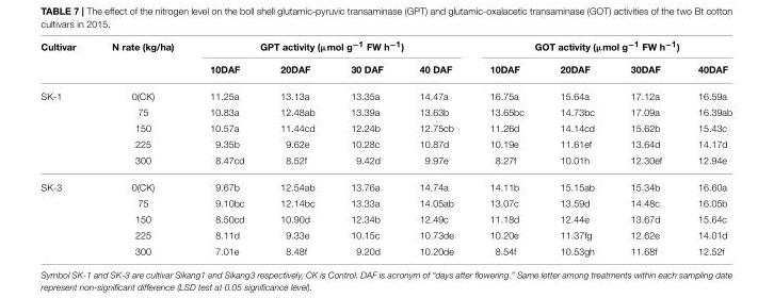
<table><thead><tr><td rowspan="2">Cultivar</td><td rowspan="2">N rate (kg/ha)</td><td colspan="4">GPT activity (µmol g<sup>−1</sup> FW h<sup>−1</sup>)</td><td colspan="4">GOT activity (µmol g<sup>−1</sup> FW h<sup>−1</sup>)</td></tr><tr><td>10DAF</td><td>20DAF</td><td>30 DAF</td><td>40 DAF</td><td>10DAF</td><td>20DAF</td><td>30DAF</td><td>40DAF</td></tr></thead><tbody><tr><td rowspan="5">SK-1</td><td>0(CK)</td><td>11.25a</td><td>13.13a</td><td>13.35a</td><td>14.47a</td><td>16.75a</td><td>15.64a</td><td>17.12a</td><td>16.59a</td></tr><tr><td>75</td><td>10.83a</td><td>12.48ab</td><td>13.39a</td><td>13.63b</td><td>13.65bc</td><td>14.73bc</td><td>17.09a</td><td>16.39ab</td></tr><tr><td>150</td><td>10.57a</td><td>11.44cd</td><td>12.24b</td><td>12.75cb</td><td>11.26d</td><td>14.14cd</td><td>15.62b</td><td>15.43c</td></tr><tr><td>225</td><td>9.35b</td><td>9.62e</td><td>10.28c</td><td>10.87d</td><td>10.19e</td><td>11.61ef</td><td>13.64d</td><td>14.17d</td></tr><tr><td>300</td><td>8.47cd</td><td>8.52f</td><td>9.42d</td><td>9.97e</td><td>8.27f</td><td>10.01h</td><td>12.30ef</td><td>12.94e</td></tr><tr><td rowspan="5">SK-3</td><td>0(CK)</td><td>9.67b</td><td>12.54ab</td><td>13.76a</td><td>14.74a</td><td>14.11b</td><td>15.15ab</td><td>15.34b</td><td>16.60a</td></tr><tr><td>75</td><td>9.10bc</td><td>12.14bc</td><td>13.33a</td><td>14.05ab</td><td>13.07c</td><td>13.59d</td><td>14.48c</td><td>16.05b</td></tr><tr><td>150</td><td>8.50cd</td><td>10.90d</td><td>12.34b</td><td>12.49c</td><td>11.18d</td><td>12.44e</td><td>13.67d</td><td>15.64c</td></tr><tr><td>225</td><td>8.11d</td><td>9.33e</td><td>10.15c</td><td>10.73de</td><td>10.20e</td><td>11.37fg</td><td>12.62e</td><td>14.01d</td></tr><tr><td>300</td><td>7.01e</td><td>8.48f</td><td>9.20d</td><td>10.20de</td><td>8.54f</td><td>10.53gh</td><td>11.68f</td><td>12.52f</td></tr></tbody></table>